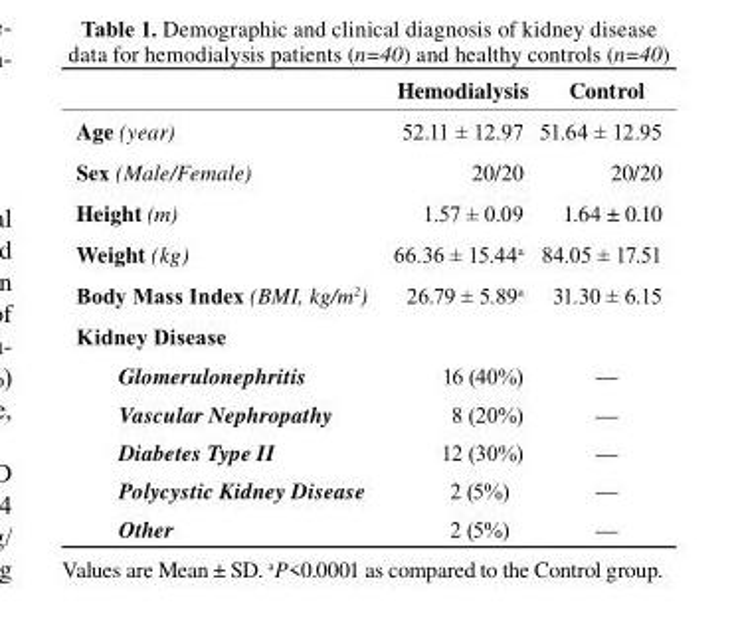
<table><thead><tr><td></td><td>Hemodialysis</td><td>control</td></tr></thead><tbody><tr><td>Age (year)</td><td>52.11 ± 12.97</td><td>51.64 ± 12.95</td></tr><tr><td>Sex (Male/Female)</td><td>20/20</td><td>20/20</td></tr><tr><td>Height (m)</td><td>1.57 ± 0.09</td><td>1.64 ± 0.10</td></tr><tr><td>Weight (kg)</td><td>66.36 ± 15.44<sup>a</sup></td><td>84.05 ± 17.51</td></tr><tr><td>Body Mass Index (BMI, kg/m<sup>2</sup>)</td><td>26.79 ± 5.89<sup>a</sup></td><td>31.30 ± 6.15</td></tr><tr><td colspan="3">Kidney Disease</td></tr><tr><td>Glomerulonephritis</td><td>16 (40%)</td><td>—</td></tr><tr><td>Vascular Nephropathy</td><td>8 (20%)</td><td>—</td></tr><tr><td>Diabetes Type II</td><td>12 (30%)</td><td>—</td></tr><tr><td>Polycystic Kidney Disease</td><td>2 (5%)</td><td>—</td></tr><tr><td>Other</td><td>2 (5%)</td><td>—</td></tr></tbody></table>